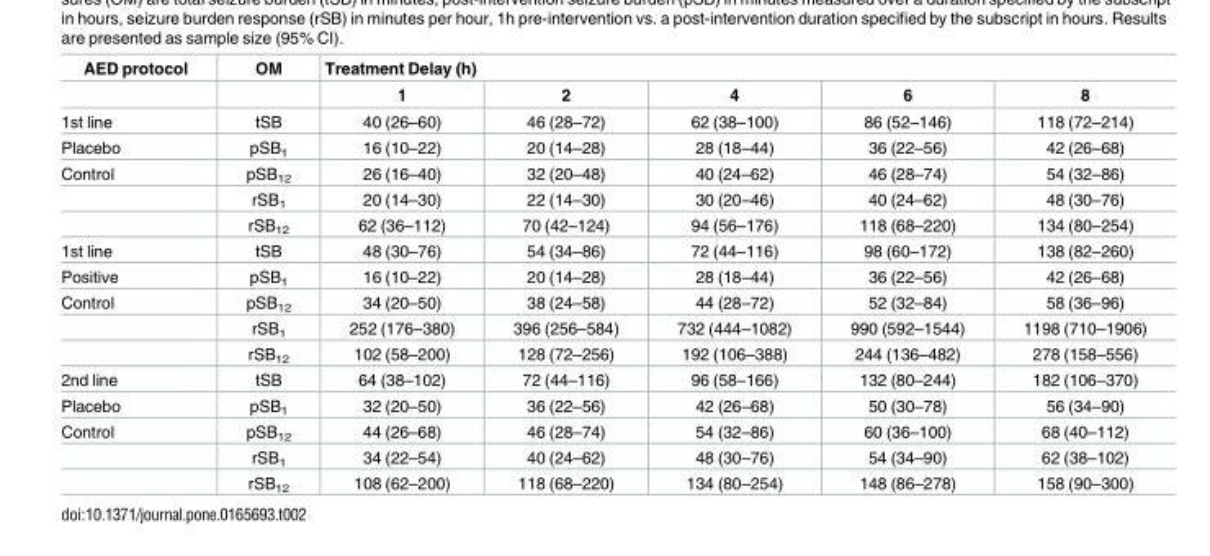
<table><thead><tr><td rowspan="2">AED protocol</td><td rowspan="2">OM</td><td colspan="5">Treatment Delay (h)</td></tr><tr><td>1</td><td>2</td><td>4</td><td>6</td><td>8</td></tr></thead><tbody><tr><td>1st line</td><td>tSB</td><td>40 (26–60)</td><td>46 (28–72)</td><td>62 (38–100)</td><td>86 (52–146)</td><td>118 (72–214)</td></tr><tr><td>Placebo</td><td>pSB<sub>1</sub></td><td>16 (10–22)</td><td>20 (14–28)</td><td>28 (18–44)</td><td>36 (22–56)</td><td>42 (26–68)</td></tr><tr><td rowspan="3">Control</td><td>pSB<sub>12</sub></td><td>26 (16–40)</td><td>32 (20–48)</td><td>40 (24–62)</td><td>46 (28–74)</td><td>54 (32–86)</td></tr><tr><td>rSB<sub>1</sub></td><td>20 (14–30)</td><td>22 (14–30)</td><td>30 (20–46)</td><td>40 (24–62)</td><td>48 (30–76)</td></tr><tr><td>rSB<sub>12</sub></td><td>62 (36–112)</td><td>70 (42–124)</td><td>94 (56–176)</td><td>118 (68–220)</td><td>134 (80–254)</td></tr><tr><td>1st line</td><td>tSB</td><td>48 (30–76)</td><td>54 (34–86)</td><td>72 (44–116)</td><td>98 (60–172)</td><td>138 (82–260)</td></tr><tr><td>Positive</td><td>pSB<sub>1</sub></td><td>16 (10–22)</td><td>20 (14–28)</td><td>28 (18–44)</td><td>36 (22–56)</td><td>42 (26–68)</td></tr><tr><td rowspan="3">Control</td><td>pSB<sub>12</sub></td><td>34 (20–50)</td><td>38 (24–58)</td><td>44 (28–72)</td><td>52 (32–84)</td><td>58 (36–96)</td></tr><tr><td>rSB<sub>1</sub></td><td>252 (176–380)</td><td>396 (256–584)</td><td>732 (444–1082)</td><td>990 (592–1544)</td><td>1198 (710–1906)</td></tr><tr><td>rSB<sub>12</sub></td><td>102 (58–200)</td><td>128 (72–256)</td><td>192 (106–388)</td><td>244 (136–482)</td><td>278 (158–556)</td></tr><tr><td>2nd line</td><td>tSB</td><td>64 (38–102)</td><td>72 (44–116)</td><td>96 (58–166)</td><td>132 (80–244)</td><td>182 (106–370)</td></tr><tr><td>Placebo</td><td>pSB<sub>1</sub></td><td>32 (20–50)</td><td>36 (22–56)</td><td>42 (26–68)</td><td>50 (30–78)</td><td>56 (34–90)</td></tr><tr><td rowspan="3">Control</td><td>pSB<sub>12</sub></td><td>44 (26–68)</td><td>46 (28–74)</td><td>54 (32–86)</td><td>60 (36–100)</td><td>68 (40–112)</td></tr><tr><td>rSB<sub>1</sub></td><td>34 (22–54)</td><td>40 (24–62)</td><td>48 (30–76)</td><td>54 (34–90)</td><td>62 (38–102)</td></tr><tr><td>rSB<sub>12</sub></td><td>108 (62–200)</td><td>118 (68–220)</td><td>134 (80–254)</td><td>148 (86–278)</td><td>158 (90–300)</td></tr></tbody></table>